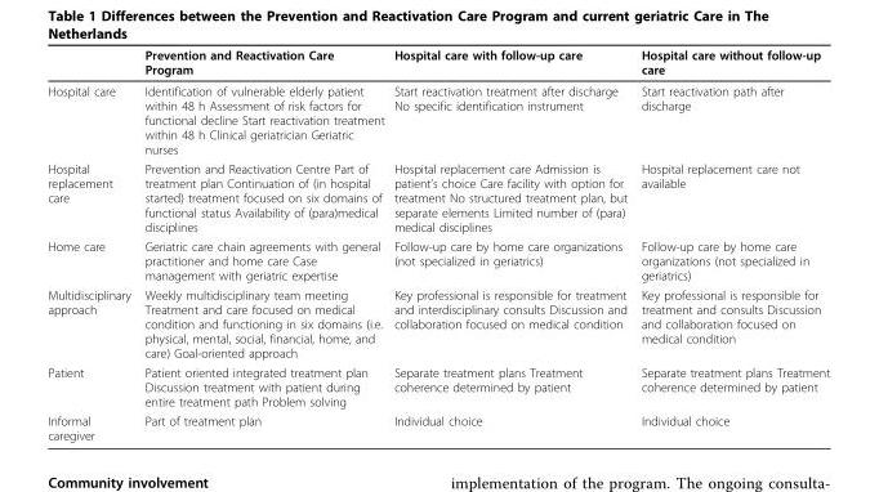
<table><thead><tr><td></td><td>Prevention and Reactivation Care Program</td><td>Hospital care with follow-up care</td><td>Hospital care without follow-up care</td></tr></thead><tbody><tr><td>Hospital care</td><td>Identification of vulnerable elderly patient within 48 h Assessment of risk factors for functional decline Start reactivation treatment within 48 h Clinical geriatrician Geriatric nurses</td><td>Start reactivation treatment after discharge No specific identification instrument</td><td>Start reactivation path after discharge</td></tr><tr><td>Hospital replacement care</td><td>Prevention and Reactivation Centre Part of treatment plan Continuation of (in hospital started) treatment focused on six domains of functional status Availability of (para)medical disciplines</td><td>Hospital replacement care Admission is patient’s choice Care facility with option for treatment No structured treatment plan, but separate elements Limited number of (para) medical disciplines</td><td>Hospital replacement care not available</td></tr><tr><td>Home care</td><td>Geriatric care chain agreements with general practitioner and home care Case management with geriatric expertise</td><td>Follow-up care by home care organizations (not specialized in geriatrics)</td><td>Follow-up care by home care organizations (not specialized in geriatrics)</td></tr><tr><td>Multidisciplinary approach</td><td>Weekly multidisciplinary team meeting Treatment and care focused on medical condition and functioning in six domains (i.e. physical, mental, social, financial, home, and care) Goal-oriented approach</td><td>Key professional is responsible for treatment and interdisciplinary consults Discussion and collaboration focused on medical condition</td><td>Key professional is responsible for treatment and consults Discussion and collaboration focused on medical condition</td></tr><tr><td>Patient</td><td>Patient oriented integrated treatment plan Discussion treatment with patient during entire treatment path Problem solving</td><td>Separate treatment plans Treatment coherence determined by patient</td><td>Separate treatment plans Treatment coherence determined by patient</td></tr><tr><td>Informal caregiver</td><td>Part of treatment plan</td><td>Individual choice</td><td>Individual choice</td></tr></tbody></table>